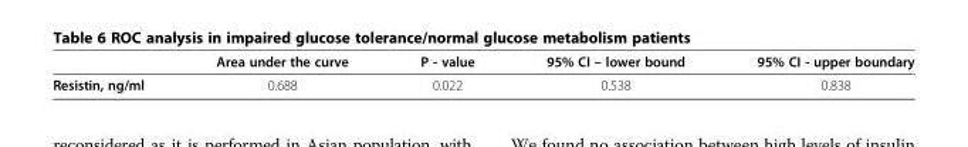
<table><thead><tr><td></td><td>Area under the curve</td><td>P - value</td><td>95% CI – lower bound</td><td>95% CI - upper boundary</td></tr></thead><tbody><tr><td>Resistin, ng/ml</td><td>0.688</td><td>0.022</td><td>0.538</td><td>0.838</td></tr></tbody></table>